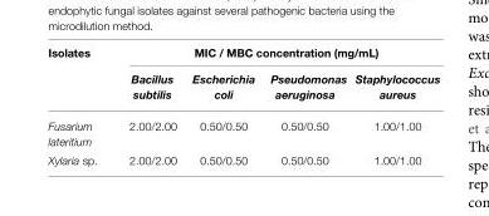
<table><thead><tr><td rowspan="2">Isolates</td><td colspan="4">MIC / MBC concentration (mg/mL)</td></tr><tr><td>Bacillus subtilis</td><td>Escherichia coli</td><td>Pseudomonas aeruginosa</td><td>Staphylococcus aureus</td></tr></thead><tbody><tr><td>Fusarium lateritium</td><td>2.00/2.00</td><td>0.50/0.50</td><td>0.50/0.50</td><td>1.00/1.00</td></tr><tr><td>Xylaria sp.</td><td>2.00/2.00</td><td>0.50/0.50</td><td>0.50/0.50</td><td>1.00/1.00</td></tr></tbody></table>